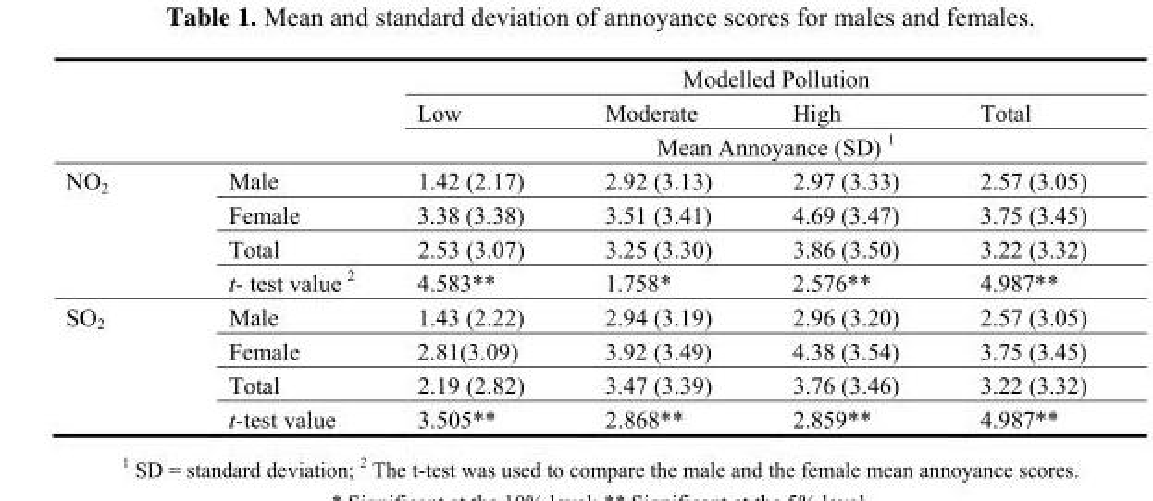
<table><thead><tr><td rowspan="3"></td><td rowspan="3"></td><td colspan="4">Modelled Pollution</td></tr><tr><td>Low</td><td>Moderate</td><td>High</td><td>Total</td></tr><tr><td colspan="4">Mean Annoyance (SD) 1</td></tr></thead><tbody><tr><td rowspan="4">NO<sub>2</sub></td><td>Male</td><td>1.42 (2.17)</td><td>2.92 (3.13)</td><td>2.97 (3.33)</td><td>2.57 (3.05)</td></tr><tr><td>Female</td><td>3.38 (3.38)</td><td>3.51 (3.41)</td><td>4.69 (3.47)</td><td>3.75 (3.45)</td></tr><tr><td>Total</td><td>2.53 (3.07)</td><td>3.25 (3.30)</td><td>3.86 (3.50)</td><td>3.22 (3.32)</td></tr><tr><td>t- test value 2</td><td>4.583**</td><td>1.758*</td><td>2.576**</td><td>4.987**</td></tr><tr><td rowspan="4">SO<sub>2</sub></td><td>Male</td><td>1.43 (2.22)</td><td>2.94 (3.19)</td><td>2.96 (3.20)</td><td>2.57 (3.05)</td></tr><tr><td>Female</td><td>2.81(3.09)</td><td>3.92 (3.49)</td><td>4.38 (3.54)</td><td>3.75 (3.45)</td></tr><tr><td>Total</td><td>2.19 (2.82)</td><td>3.47 (3.39)</td><td>3.76 (3.46)</td><td>3.22 (3.32)</td></tr><tr><td>t-test value</td><td>3.505**</td><td>2.868**</td><td>2.859**</td><td>4.987**</td></tr></tbody></table>